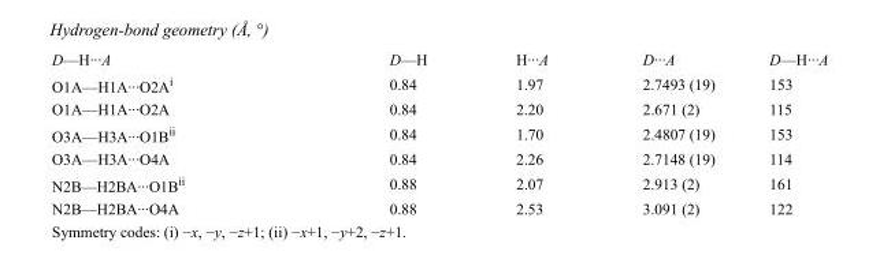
<table><tbody><tr><td>D—H···A</td><td>D—H</td><td>H···A</td><td>D···A</td><td>D—H···A</td></tr><tr><td>O1A—H1A···O2A<sup>i</sup></td><td>0.84</td><td>1.97</td><td>2.7493 (19)</td><td>153</td></tr><tr><td>O1A—H1A···O2A</td><td>0.84</td><td>2.20</td><td>2.671 (2)</td><td>115</td></tr><tr><td>O3A—H3A···O1B<sup>ii</sup></td><td>0.84</td><td>1.70</td><td>2.4807 (19)</td><td>153</td></tr><tr><td>O3A—H3A···O4A</td><td>0.84</td><td>2.26</td><td>2.7148 (19)</td><td>114</td></tr><tr><td>N2B—H2BA···O1B<sup>ii</sup></td><td>0.88</td><td>2.07</td><td>2.913 (2)</td><td>161</td></tr><tr><td>N2B—H2BA···O4A</td><td>0.88</td><td>2.53</td><td>3.091 (2)</td><td>122</td></tr></tbody></table>